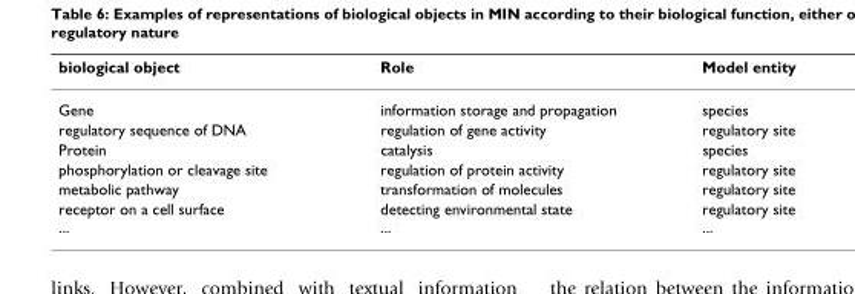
<table><thead><tr><td>biological object</td><td>Role</td><td>Model entity</td></tr></thead><tbody><tr><td>Gene</td><td>information storage and propagation</td><td>species</td></tr><tr><td>regulatory sequence of DNA</td><td>regulation of gene activity</td><td>regulatory site</td></tr><tr><td>Protein</td><td>catalysis</td><td>species</td></tr><tr><td>phosphorylation or cleavage site</td><td>regulation of protein activity</td><td>regulatory site</td></tr><tr><td>metabolic pathway</td><td>transformation of molecules</td><td>regulatory site</td></tr><tr><td>receptor on a cell surface ...</td><td>detecting environmental state ...</td><td>regulatory site ...</td></tr></tbody></table>